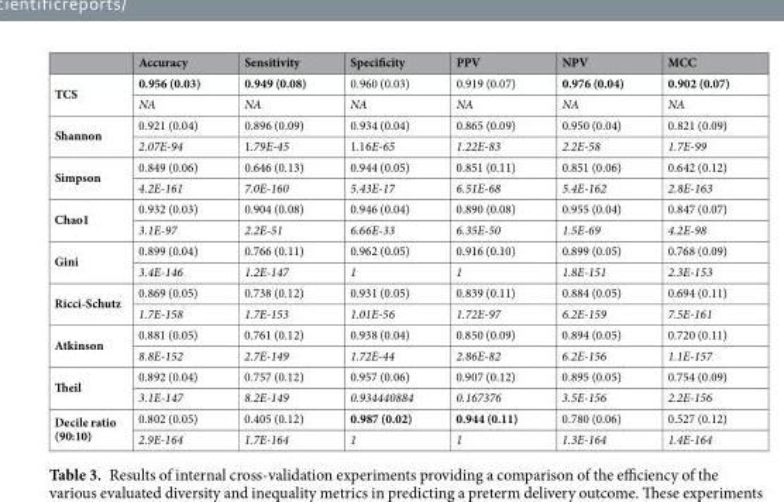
<table><thead><tr><td></td><td>Accuracy</td><td>Sensitivity</td><td>Specificity</td><td>PPV</td><td>NPV</td><td>MCC</td></tr></thead><tbody><tr><td rowspan="2">TCS</td><td>0.956 (0.03)</td><td>0.949 (0.08)</td><td>0.960 (0.03)</td><td>0.919 (0.07)</td><td>0.976 (0.04)</td><td>0.902 (0.07)</td></tr><tr><td>NA</td><td>NA</td><td>NA</td><td>NA</td><td>NA</td><td>NA</td></tr><tr><td rowspan="2">Shannon</td><td>0.921 (0.04)</td><td>0.896 (0.09)</td><td>0.934 (0.04)</td><td>0.865 (0.09)</td><td>0.950 (0.04)</td><td>0.821 (0.09)</td></tr><tr><td>2.07E-94</td><td>1.79E-45</td><td>1.16E-65</td><td>1.22E-83</td><td>2.2E-58</td><td>1.7E-99</td></tr><tr><td rowspan="2">Simpson</td><td>0.849 (0.06)</td><td>0.646 (0.13)</td><td>0.944 (0.05)</td><td>0.851 (0.11)</td><td>0.851 (0.06)</td><td>0.642 (0.12)</td></tr><tr><td>4.2E-161</td><td>7.0E-160</td><td>5.43E-17</td><td>6.51E-68</td><td>5.4E-162</td><td>2.8E-163</td></tr><tr><td rowspan="2">Chao1</td><td>0.932 (0.03)</td><td>0.904 (0.08)</td><td>0.946 (0.04)</td><td>0.890 (0.08)</td><td>0.955 (0.04)</td><td>0.847 (0.07)</td></tr><tr><td>3.1E-97</td><td>2.2E-51</td><td>6.66E-33</td><td>6.35E-50</td><td>1.5E-69</td><td>4.2E-98</td></tr><tr><td rowspan="2">Gini</td><td>0.899 (0.04)</td><td>0.766 (0.11)</td><td>0.962 (0.05)</td><td>0.916 (0.10)</td><td>0.899 (0.05)</td><td>0.768 (0.09)</td></tr><tr><td>3.4E-146</td><td>1.2E-147</td><td>1</td><td>1</td><td>1.8E-151</td><td>2.3E-153</td></tr><tr><td rowspan="2">Ricci-Schutz</td><td>0.869 (0.05)</td><td>0.738 (0.12)</td><td>0.931 (0.05)</td><td>0.839 (0.11)</td><td>0.884 (0.05)</td><td>0.694 (0.11)</td></tr><tr><td>1.7E-158</td><td>1.7E-153</td><td>1.01E-56</td><td>1.72E-97</td><td>6.2E-159</td><td>7.5E-161</td></tr><tr><td rowspan="2">Atkinson</td><td>0.881 (0.05)</td><td>0.761 (0.12)</td><td>0.938 (0.04)</td><td>0.850 (0.09)</td><td>0.894 (0.05)</td><td>0.720 (0.11)</td></tr><tr><td>8.8E-152</td><td>2.7E-149</td><td>1.72E-44</td><td>2.86E-82</td><td>6.2E-156</td><td>1.1E-157</td></tr><tr><td rowspan="2">Theil</td><td>0.892 (0.04)</td><td>0.757 (0.12)</td><td>0.957 (0.06)</td><td>0.907 (0.12)</td><td>0.895 (0.05)</td><td>0.754 (0.09)</td></tr><tr><td>3.1E-147</td><td>8.2E-149</td><td>0.934440884</td><td>0.167376</td><td>3.5E-156</td><td>2.2E-156</td></tr><tr><td rowspan="2">Decile ratio (90:10)</td><td>0.802 (0.05)</td><td>0.405 (0.12)</td><td>0.987 (0.02)</td><td>0.944 (0.11)</td><td>0.780 (0.06)</td><td>0.527 (0.12)</td></tr><tr><td>2.9E-164</td><td>1.7E-164</td><td>1</td><td>1</td><td>1.3E-164</td><td>1.4E-164</td></tr></tbody></table>